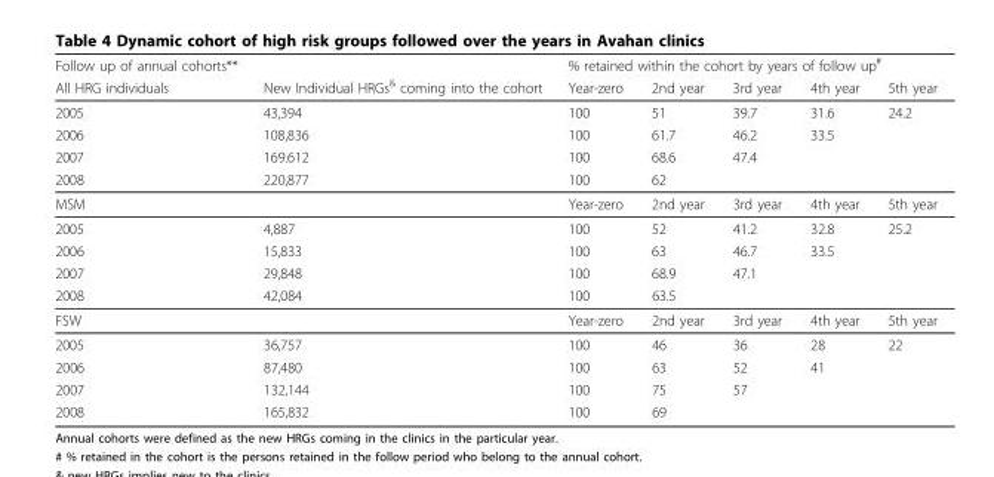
<table><thead><tr><td rowspan="2">Follow up of annual cohorts** All HRG individuals</td><td rowspan="2">New Individual HRGs<sup>&amp;</sup> coming into the cohort</td><td colspan="5">% retained within the cohort by years of follow up<sup>#</sup></td></tr><tr><td>Year-zero</td><td>2nd year</td><td>3rd year</td><td>4th year</td><td>5th year</td></tr></thead><tbody><tr><td>2005</td><td>43,394</td><td>100</td><td>51</td><td>39.7</td><td>31.6</td><td>24.2</td></tr><tr><td>2006</td><td>108,836</td><td>100</td><td>61.7</td><td>46.2</td><td>33.5</td><td></td></tr><tr><td>2007</td><td>169.612</td><td>100</td><td>68.6</td><td>47.4</td><td></td><td></td></tr><tr><td>2008</td><td>220,877</td><td>100</td><td>62</td><td></td><td></td><td></td></tr><tr><td>MSM</td><td></td><td>Year-zero</td><td>2nd year</td><td>3rd year</td><td>4th year</td><td>5th year</td></tr><tr><td>2005</td><td>4,887</td><td>100</td><td>52</td><td>41.2</td><td>32.8</td><td>25.2</td></tr><tr><td>2006</td><td>15,833</td><td>100</td><td>63</td><td>46.7</td><td>33.5</td><td></td></tr><tr><td>2007</td><td>29,848</td><td>100</td><td>68.9</td><td>47.1</td><td></td><td></td></tr><tr><td>2008</td><td>42,084</td><td>100</td><td>63.5</td><td></td><td></td><td></td></tr><tr><td>FSW</td><td></td><td>Year-zero</td><td>2nd year</td><td>3rd year</td><td>4th year</td><td>5th year</td></tr><tr><td>2005</td><td>36,757</td><td>100</td><td>46</td><td>36</td><td>28</td><td>22</td></tr><tr><td>2006</td><td>87,480</td><td>100</td><td>63</td><td>52</td><td>41</td><td></td></tr><tr><td>2007</td><td>132,144</td><td>100</td><td>75</td><td>57</td><td></td><td></td></tr><tr><td>2008</td><td>165,832</td><td>100</td><td>69</td><td></td><td></td><td></td></tr></tbody></table>